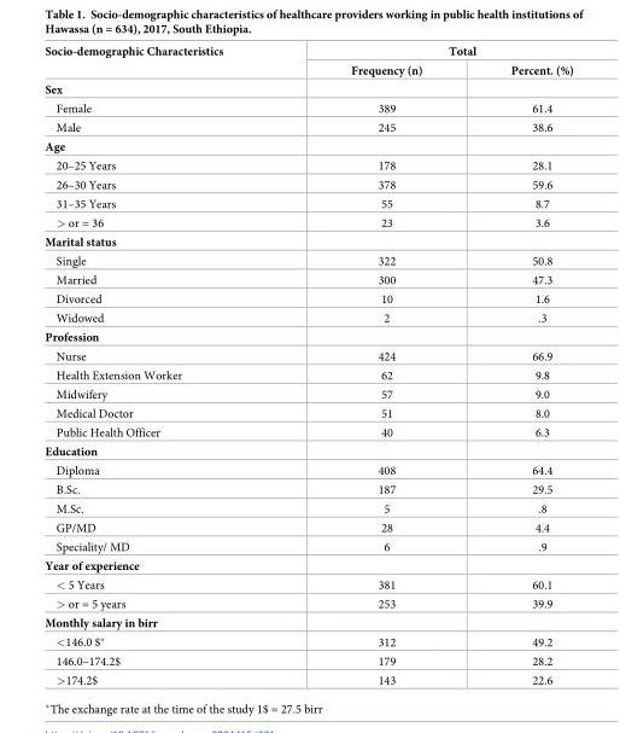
<table><thead><tr><td rowspan="2">Socio-demographic Characteristics</td><td colspan="2">Total</td></tr><tr><td>Frequency (n)</td><td>Percent. (%)</td></tr></thead><tbody><tr><td colspan="3">Sex</td></tr><tr><td>Female</td><td>389</td><td>61.4</td></tr><tr><td>Male</td><td>245</td><td>38.6</td></tr><tr><td colspan="3">Age</td></tr><tr><td>20–25 Years</td><td>178</td><td>28.1</td></tr><tr><td>26–30 Years</td><td>378</td><td>59.6</td></tr><tr><td>31–35 Years</td><td>55</td><td>8.7</td></tr><tr><td>&gt; or = 36</td><td>23</td><td>3.6</td></tr><tr><td colspan="3">Marital status</td></tr><tr><td>Single</td><td>322</td><td>50.8</td></tr><tr><td>Married</td><td>300</td><td>47.3</td></tr><tr><td>Divorced</td><td>10</td><td>1.6</td></tr><tr><td>Widowed</td><td>2</td><td>.3</td></tr><tr><td colspan="3">Profession</td></tr><tr><td>Nurse</td><td>424</td><td>66.9</td></tr><tr><td>Health Extension Worker</td><td>62</td><td>9.8</td></tr><tr><td>Midwifery</td><td>57</td><td>9.0</td></tr><tr><td>Medical Doctor</td><td>51</td><td>8.0</td></tr><tr><td>Public Health Officer</td><td>40</td><td>6.3</td></tr><tr><td colspan="3">Education</td></tr><tr><td>Diploma</td><td>408</td><td>64.4</td></tr><tr><td>B.Sc.</td><td>187</td><td>29.5</td></tr><tr><td>M.Sc.</td><td>5</td><td>.8</td></tr><tr><td>GP/MD</td><td>28</td><td>4.4</td></tr><tr><td>Speciality/ MD</td><td>6</td><td>.9</td></tr><tr><td colspan="3">Year of experience</td></tr><tr><td>&lt; 5 Years</td><td>381</td><td>60.1</td></tr><tr><td>&gt; or = 5 years</td><td>253</td><td>39.9</td></tr><tr><td colspan="3">Monthly salary in birr</td></tr><tr><td>&lt;146.0 $*</td><td>312</td><td>49.2</td></tr><tr><td>146.0–174.2$</td><td>179</td><td>28.2</td></tr><tr><td>&gt;174.2$</td><td>143</td><td>22.6</td></tr></tbody></table>